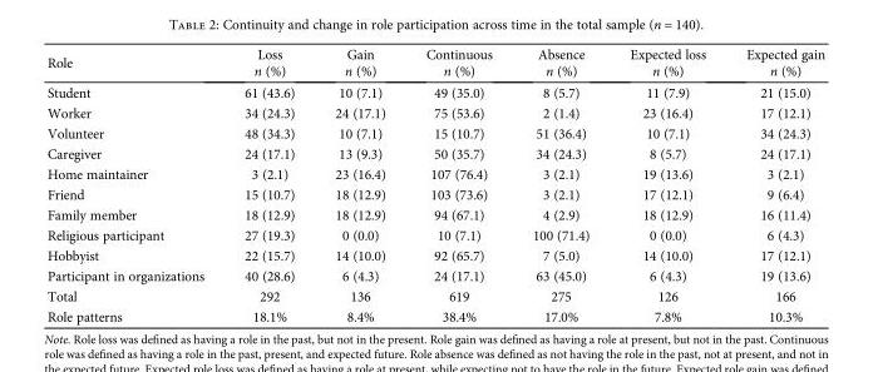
<table><thead><tr><td rowspan="2">Role</td><td rowspan="2">Loss n (%)</td><td rowspan="2">Gain n (%)</td><td rowspan="2">Continuous n (%)</td><td rowspan="2">Absence n (%)</td><td rowspan="2">Expected loss n (%)</td><td rowspan="2">Expected gain n (%)</td></tr><tr></tr></thead><tbody><tr><td>Student</td><td>61 (43.6)</td><td>10 (7.1)</td><td>49 (35.0)</td><td>8 (5.7)</td><td>11 (7.9)</td><td>21 (15.0)</td></tr><tr><td>Worker</td><td>34 (24.3)</td><td>24 (17.1)</td><td>75 (53.6)</td><td>2 (1.4)</td><td>23 (16.4)</td><td>17 (12.1)</td></tr><tr><td>Volunteer</td><td>48 (34.3)</td><td>10 (7.1)</td><td>15 (10.7)</td><td>51 (36.4)</td><td>10 (7.1)</td><td>34 (24.3)</td></tr><tr><td>Caregiver</td><td>24 (17.1)</td><td>13 (9.3)</td><td>50 (35.7)</td><td>34 (24.3)</td><td>8 (5.7)</td><td>24 (17.1)</td></tr><tr><td>Home maintainer</td><td>3 (2.1)</td><td>23 (16.4)</td><td>107 (76.4)</td><td>3 (2.1)</td><td>19 (13.6)</td><td>3 (2.1)</td></tr><tr><td>Friend</td><td>15 (10.7)</td><td>18 (12.9)</td><td>103 (73.6)</td><td>3 (2.1)</td><td>17 (12.1)</td><td>9 (6.4)</td></tr><tr><td>Family member</td><td>18 (12.9)</td><td>18 (12.9)</td><td>94 (67.1)</td><td>4 (2.9)</td><td>18 (12.9)</td><td>16 (11.4)</td></tr><tr><td>Religious participant</td><td>27 (19.3)</td><td>0 (0.0)</td><td>10 (7.1)</td><td>100 (71.4)</td><td>0 (0.0)</td><td>6 (4.3)</td></tr><tr><td>Hobbyist</td><td>22 (15.7)</td><td>14 (10.0)</td><td>92 (65.7)</td><td>7 (5.0)</td><td>14 (10.0)</td><td>17 (12.1)</td></tr><tr><td>Participant in organizations</td><td>40 (28.6)</td><td>6 (4.3)</td><td>24 (17.1)</td><td>63 (45.0)</td><td>6 (4.3)</td><td>19 (13.6)</td></tr><tr><td>Total</td><td>292</td><td>136</td><td>619</td><td>275</td><td>126</td><td>166</td></tr><tr><td>Role patterns</td><td>18.1%</td><td>8.4%</td><td>38.4%</td><td>17.0%</td><td>7.8%</td><td>10.3%</td></tr></tbody></table>